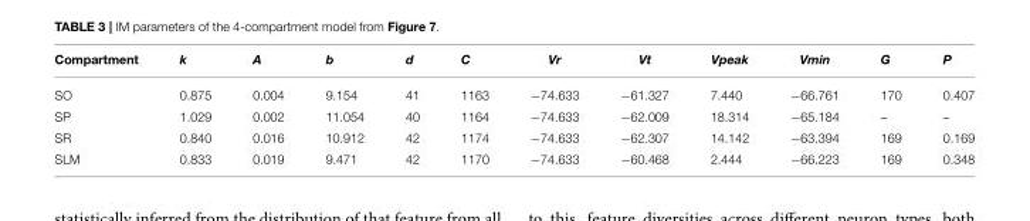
<table><thead><tr><td>Compartment</td><td>k</td><td>A</td><td>b</td><td>d</td><td>C</td><td>Vr</td><td>Vt</td><td>Vpeak</td><td>Vmin</td><td>G</td><td>P</td></tr></thead><tbody><tr><td>SO</td><td>0.875</td><td>0.004</td><td>9.154</td><td>41</td><td>1163</td><td>−74.633</td><td>−61.327</td><td>7.440</td><td>−66.761</td><td>170</td><td>0.407</td></tr><tr><td>SP</td><td>1.029</td><td>0.002</td><td>11.054</td><td>40</td><td>1164</td><td>−74.633</td><td>−62.009</td><td>18.314</td><td>−65.184</td><td>–</td><td>–</td></tr><tr><td>SR</td><td>0.840</td><td>0.016</td><td>10.912</td><td>42</td><td>1174</td><td>−74.633</td><td>−62.307</td><td>14.142</td><td>−63.394</td><td>169</td><td>0.169</td></tr><tr><td>SLM</td><td>0.833</td><td>0.019</td><td>9.471</td><td>42</td><td>1170</td><td>−74.633</td><td>−60.468</td><td>2.444</td><td>−66.223</td><td>169</td><td>0.348</td></tr></tbody></table>